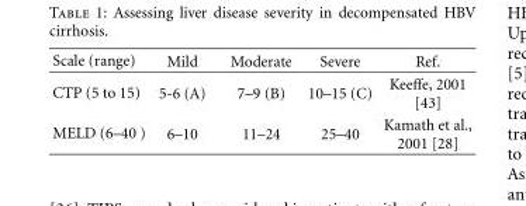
<table><thead><tr><td>Scale (range)</td><td>Mild</td><td>Moderate</td><td>Severe</td><td>Ref.</td></tr></thead><tbody><tr><td>CTP (5 to 15)</td><td>5-6 (A)</td><td>7–9 (B)</td><td>10–15 (C)</td><td>Keeffe, 2001 [43]</td></tr><tr><td>MELD (6–40 )</td><td>6–10</td><td>11–24</td><td>25–40</td><td>Kamath et al., 2001 [28]</td></tr></tbody></table>